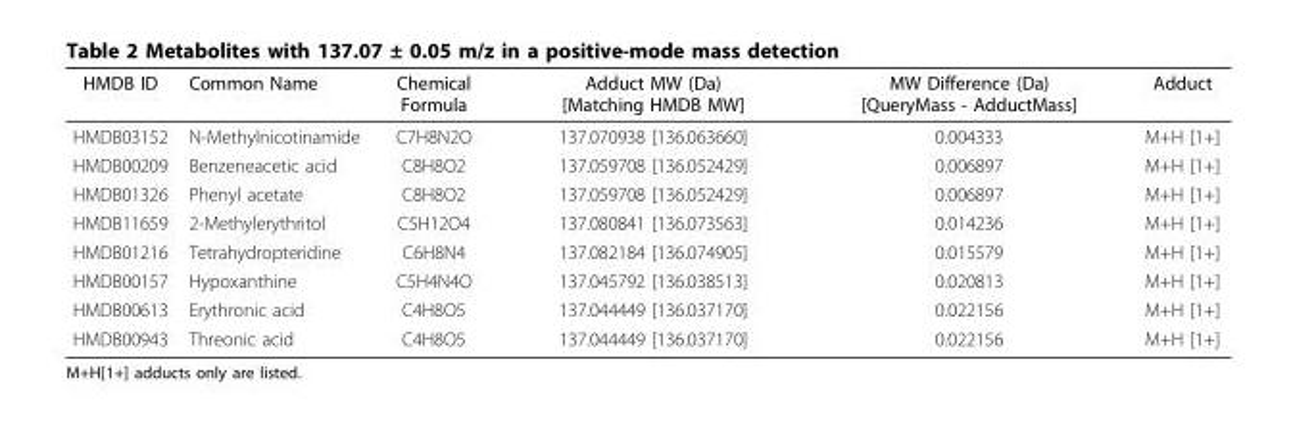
<table><thead><tr><td>HMDB ID</td><td>Common Name</td><td>Chemical Formula</td><td>Adduct MW (Da) [Matching HMDB MW]</td><td>MW Difference (Da) [QueryMass - AdductMass]</td><td>Adduct</td></tr></thead><tbody><tr><td>HMDB03152</td><td>N-Methylnicotinamide</td><td>C7H8N2O</td><td>137.070938 [136.063660]</td><td>0.004333</td><td>M+H [1+]</td></tr><tr><td>HMDB00209</td><td>Benzeneacetic acid</td><td>C8H8O2</td><td>137.059708 [136.052429]</td><td>0.006897</td><td>M+H [1+]</td></tr><tr><td>HMDB01326</td><td>Phenyl acetate</td><td>C8H8O2</td><td>137.059708 [136.052429]</td><td>0.006897</td><td>M+H [1+]</td></tr><tr><td>HMDB11659</td><td>2-Methylerythritol</td><td>C5H12O4</td><td>137.080841 [136.073563]</td><td>0.014236</td><td>M+H [1+]</td></tr><tr><td>HMDB01216</td><td>Tetrahydropteridine</td><td>C6H8N4</td><td>137.082184 [136.074905]</td><td>0.015579</td><td>M+H [1+]</td></tr><tr><td>HMDB00157</td><td>Hypoxanthine</td><td>C5H4N4O</td><td>137.045792 [136.038513]</td><td>0.020813</td><td>M+H [1+]</td></tr><tr><td>HMDB00613</td><td>Erythronic acid</td><td>C4H8O5</td><td>137.044449 [136.037170]</td><td>0.022156</td><td>M+H [1+]</td></tr><tr><td>HMDB00943</td><td>Threonic acid</td><td>C4H8O5</td><td>137.044449 [136.037170]</td><td>0.022156</td><td>M+H [1+]</td></tr></tbody></table>